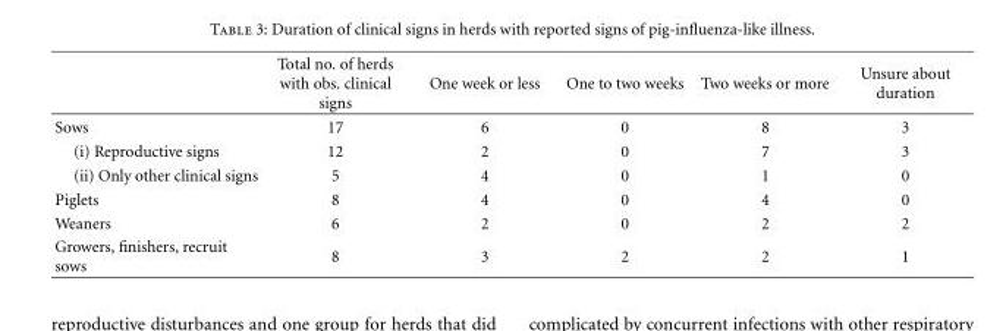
<table><thead><tr><td></td><td>Total no. of herds with obs. clinical signs</td><td>One week or less</td><td>One to two weeks</td><td>Two weeks or more</td><td>Unsure about duration</td></tr></thead><tbody><tr><td>Sows</td><td>17</td><td>6</td><td>0</td><td>8</td><td>3</td></tr><tr><td>(i) Reproductive signs</td><td>12</td><td>2</td><td>0</td><td>7</td><td>3</td></tr><tr><td>(ii) Only other clinical signs</td><td>5</td><td>4</td><td>0</td><td>1</td><td>0</td></tr><tr><td>Piglets</td><td>8</td><td>4</td><td>0</td><td>4</td><td>0</td></tr><tr><td>Weaners</td><td>6</td><td>2</td><td>0</td><td>2</td><td>2</td></tr><tr><td>Growers, finishers, recruit sows</td><td>8</td><td>3</td><td>2</td><td>2</td><td>1</td></tr></tbody></table>